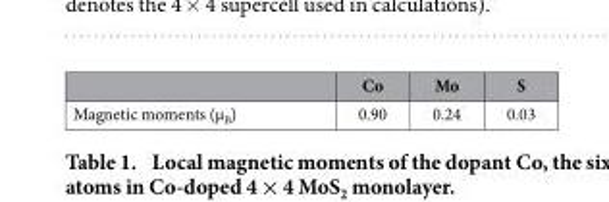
<table><thead><tr><td></td><td>Co</td><td>Mo</td><td>S</td></tr></thead><tbody><tr><td>Magnetic moments (μ<sub>B</sub>)</td><td>0.90</td><td>0.24</td><td>0.03</td></tr></tbody></table>